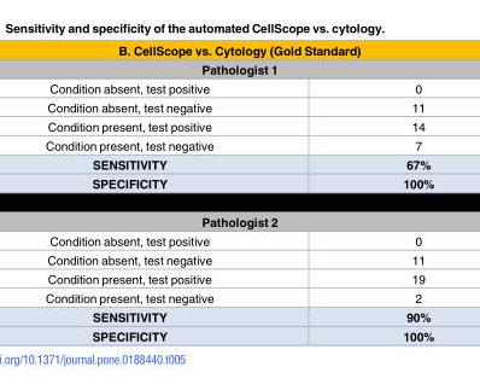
<table><thead><tr><td rowspan="2" colspan="2">B. CellScope vs. Cytology (Gold Standard) Pathologist 1</td></tr><tr></tr><tr><td>Condition absent, test positive</td><td>0</td></tr></thead><tbody><tr><td>Condition absent, test negative</td><td>11</td></tr><tr><td>Condition present, test positive</td><td>14</td></tr><tr><td>Condition present, test negative</td><td>7</td></tr><tr><td>SENSITIVITY</td><td>67%</td></tr><tr><td>SPECIFICITY</td><td>100%</td></tr><tr><td colspan="2">Pathologist 2</td></tr><tr><td>Condition absent, test positive</td><td>0</td></tr><tr><td>Condition absent, test negative</td><td>11</td></tr><tr><td>Condition present, test positive</td><td>19</td></tr><tr><td>Condition present, test negative</td><td>2</td></tr><tr><td>SENSITIVITY</td><td>90%</td></tr><tr><td>SPECIFICITY</td><td>100%</td></tr></tbody></table>